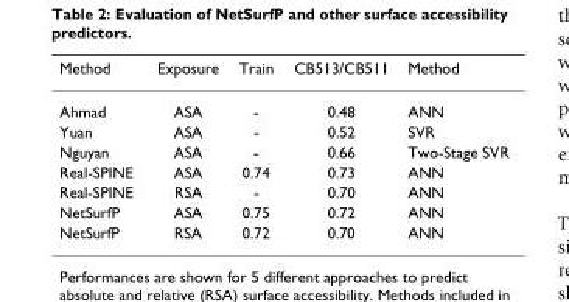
<table><thead><tr><td>Method</td><td>Exposure</td><td>Train</td><td>CB513/CB511</td><td>Method</td></tr></thead><tbody><tr><td>Ahmad</td><td>ASA</td><td>-</td><td>0.48</td><td>ANN</td></tr><tr><td>Yuan</td><td>ASA</td><td>-</td><td>0.52</td><td>SVR</td></tr><tr><td>Nguyan</td><td>ASA</td><td>-</td><td>0.66</td><td>Two-Stage SVR</td></tr><tr><td>Real-SPINE</td><td>ASA</td><td>0.74</td><td>0.73</td><td>ANN</td></tr><tr><td>Real-SPINE</td><td>RSA</td><td>-</td><td>0.70</td><td>ANN</td></tr><tr><td>NetSurfP</td><td>ASA</td><td>0.75</td><td>0.72</td><td>ANN</td></tr><tr><td>NetSurfP</td><td>RSA</td><td>0.72</td><td>0.70</td><td>ANN</td></tr></tbody></table>